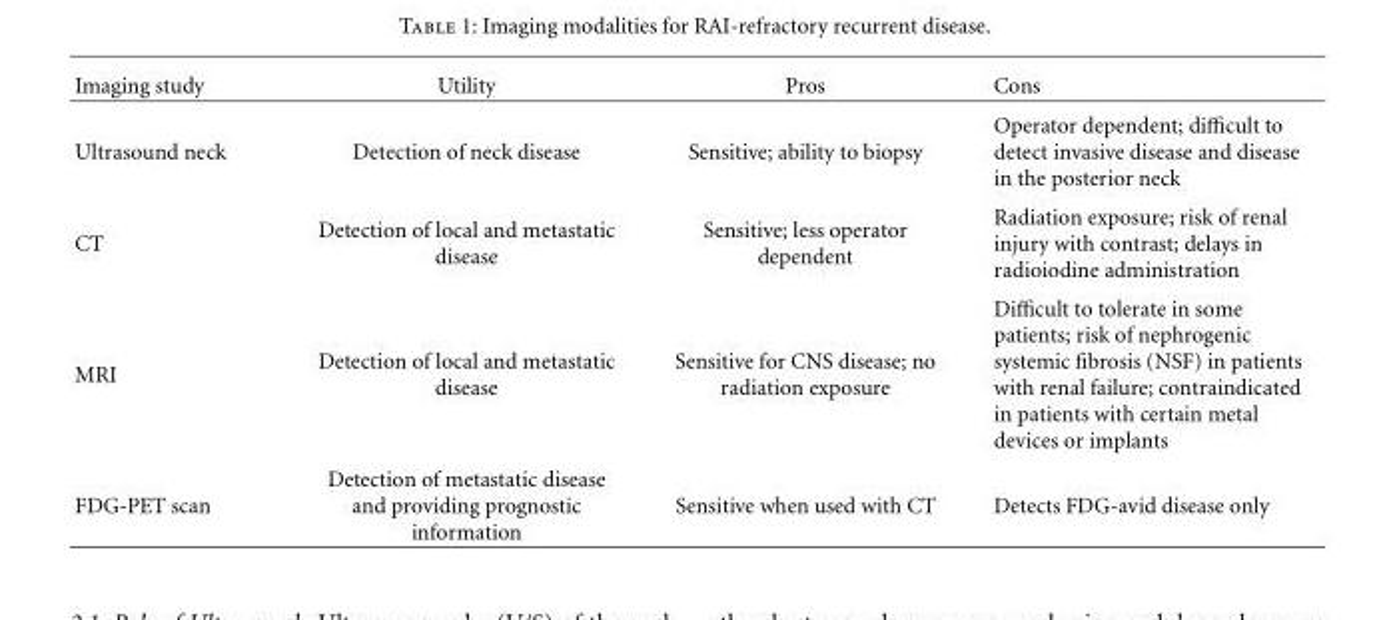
<table><thead><tr><td>Imaging study</td><td>Utility</td><td>Pros</td><td>Cons</td></tr></thead><tbody><tr><td>Ultrasound neck</td><td>Detection of neck disease</td><td>Sensitive; ability to biopsy</td><td>Operator dependent; difficult to detect invasive disease and disease in the posterior neck</td></tr><tr><td>CT</td><td>Detection of local and metastatic disease</td><td>Sensitive; less operator dependent</td><td>Radiation exposure; risk of renal injury with contrast; delays in radioiodine administration</td></tr><tr><td>MRI</td><td>Detection of local and metastatic disease</td><td>Sensitive for CNS disease; no radiation exposure</td><td>Difficult to tolerate in some patients; risk of nephrogenic systemic fibrosis (NSF) in patients with renal failure; contraindicated in patients with certain metal devices or implants</td></tr><tr><td>FDG-PET scan</td><td>Detection of metastatic disease and providing prognostic information</td><td>Sensitive when used with CT</td><td>Detects FDG-avid disease only</td></tr></tbody></table>